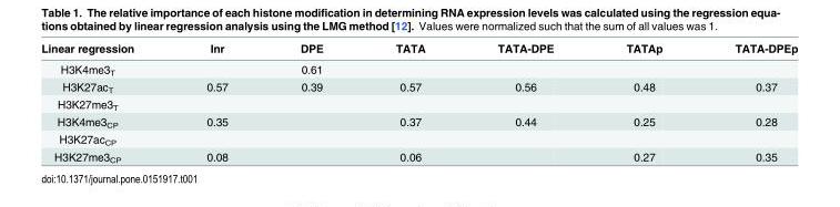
<table><thead><tr><td>Linear regression</td><td>Inr</td><td>DPE</td><td>TATA</td><td>TATA-DPE</td><td>TATAp</td><td>TATA-DPEp</td></tr></thead><tbody><tr><td>H3K4me3<sub>T</sub></td><td></td><td>0.61</td><td></td><td></td><td></td><td></td></tr><tr><td>H3K27ac<sub>T</sub></td><td>0.57</td><td>0.39</td><td>0.57</td><td>0.56</td><td>0.48</td><td>0.37</td></tr><tr><td colspan="7">H3K27me3<sub>T</sub></td></tr><tr><td>H3K4me3<sub>CP</sub></td><td>0.35</td><td></td><td>0.37</td><td>0.44</td><td>0.25</td><td>0.28</td></tr><tr><td colspan="7">H3K27ac<sub>CP</sub></td></tr><tr><td>H3K27me3<sub>CP</sub></td><td>0.08</td><td></td><td>0.06</td><td></td><td>0.27</td><td>0.35</td></tr></tbody></table>